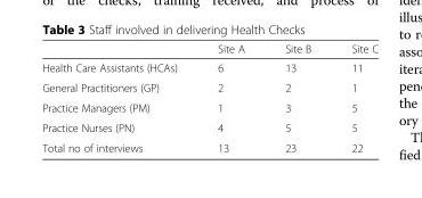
<table><thead><tr><td></td><td>Site A</td><td>Site B</td><td>Site C</td></tr></thead><tbody><tr><td>Health Care Assistants (HCAs)</td><td>6</td><td>13</td><td>11</td></tr><tr><td>General Practitioners (GP)</td><td>2</td><td>2</td><td>1</td></tr><tr><td>Practice Managers (PM)</td><td>1</td><td>3</td><td>5</td></tr><tr><td>Practice Nurses (PN)</td><td>4</td><td>5</td><td>5</td></tr><tr><td>Total no of interviews</td><td>13</td><td>23</td><td>22</td></tr></tbody></table>